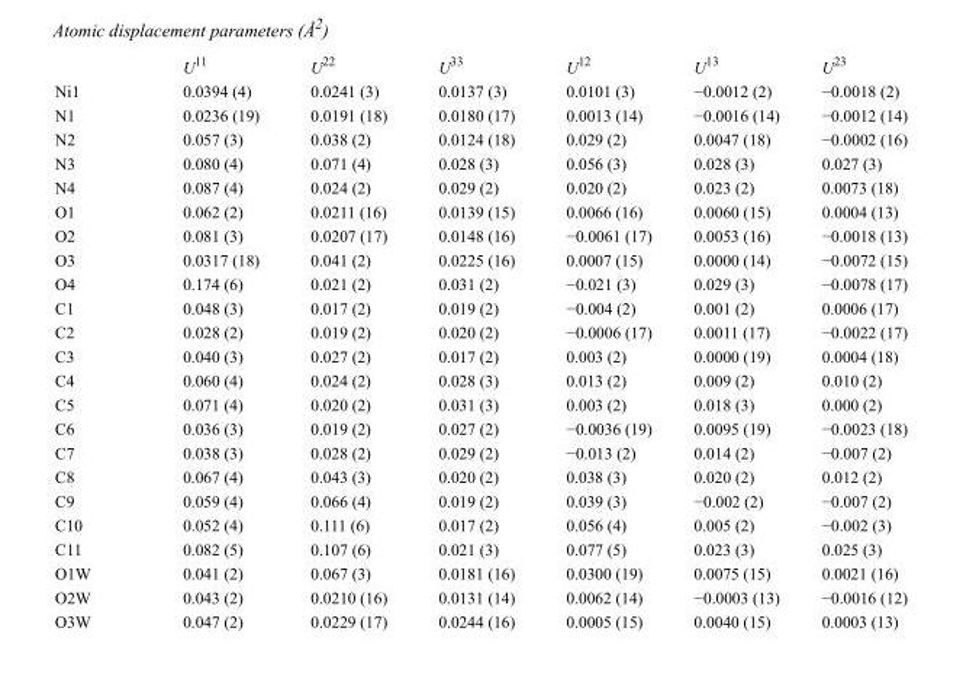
<table><thead><tr><td></td><td>U<sup>11</sup></td><td>U<sup>22</sup></td><td>U<sup>33</sup></td><td>U<sup>12</sup></td><td>U<sup>13</sup></td><td>U<sup>23</sup></td></tr></thead><tbody><tr><td>Ni1</td><td>0.0394 (4)</td><td>0.0241 (3)</td><td>0.0137 (3)</td><td>0.0101 (3)</td><td>−0.0012 (2)</td><td>−0.0018 (2)</td></tr><tr><td>N1</td><td>0.0236 (19)</td><td>0.0191 (18)</td><td>0.0180 (17)</td><td>0.0013 (14)</td><td>−0.0016 (14)</td><td>−0.0012 (14)</td></tr><tr><td>N2</td><td>0.057 (3)</td><td>0.038 (2)</td><td>0.0124 (18)</td><td>0.029 (2)</td><td>0.0047 (18)</td><td>−0.0002 (16)</td></tr><tr><td>N3</td><td>0.080 (4)</td><td>0.071 (4)</td><td>0.028 (3)</td><td>0.056 (3)</td><td>0.028 (3)</td><td>0.027 (3)</td></tr><tr><td>N4</td><td>0.087 (4)</td><td>0.024 (2)</td><td>0.029 (2)</td><td>0.020 (2)</td><td>0.023 (2)</td><td>0.0073 (18)</td></tr><tr><td>O1</td><td>0.062 (2)</td><td>0.0211 (16)</td><td>0.0139 (15)</td><td>0.0066 (16)</td><td>0.0060 (15)</td><td>0.0004 (13)</td></tr><tr><td>O2</td><td>0.081 (3)</td><td>0.0207 (17)</td><td>0.0148 (16)</td><td>−0.0061 (17)</td><td>0.0053 (16)</td><td>−0.0018 (13)</td></tr><tr><td>O3</td><td>0.0317 (18)</td><td>0.041 (2)</td><td>0.0225 (16)</td><td>0.0007 (15)</td><td>0.0000 (14)</td><td>−0.0072 (15)</td></tr><tr><td>O4</td><td>0.174 (6)</td><td>0.021 (2)</td><td>0.031 (2)</td><td>−0.021 (3)</td><td>0.029 (3)</td><td>−0.0078 (17)</td></tr><tr><td>C1</td><td>0.048 (3)</td><td>0.017 (2)</td><td>0.019 (2)</td><td>−0.004 (2)</td><td>0.001 (2)</td><td>0.0006 (17)</td></tr><tr><td>C2</td><td>0.028 (2)</td><td>0.019 (2)</td><td>0.020 (2)</td><td>−0.0006 (17)</td><td>0.0011 (17)</td><td>−0.0022 (17)</td></tr><tr><td>C3</td><td>0.040 (3)</td><td>0.027 (2)</td><td>0.017 (2)</td><td>0.003 (2)</td><td>0.0000 (19)</td><td>0.0004 (18)</td></tr><tr><td>C4</td><td>0.060 (4)</td><td>0.024 (2)</td><td>0.028 (3)</td><td>0.013 (2)</td><td>0.009 (2)</td><td>0.010 (2)</td></tr><tr><td>C5</td><td>0.071 (4)</td><td>0.020 (2)</td><td>0.031 (3)</td><td>0.003 (2)</td><td>0.018 (3)</td><td>0.000 (2)</td></tr><tr><td>C6</td><td>0.036 (3)</td><td>0.019 (2)</td><td>0.027 (2)</td><td>−0.0036 (19)</td><td>0.0095 (19)</td><td>−0.0023 (18)</td></tr><tr><td>C7</td><td>0.038 (3)</td><td>0.028 (2)</td><td>0.029 (2)</td><td>−0.013 (2)</td><td>0.014 (2)</td><td>−0.007 (2)</td></tr><tr><td>C8</td><td>0.067 (4)</td><td>0.043 (3)</td><td>0.020 (2)</td><td>0.038 (3)</td><td>0.020 (2)</td><td>0.012 (2)</td></tr><tr><td>C9</td><td>0.059 (4)</td><td>0.066 (4)</td><td>0.019 (2)</td><td>0.039 (3)</td><td>−0.002 (2)</td><td>−0.007 (2)</td></tr><tr><td>C10</td><td>0.052 (4)</td><td>0.111 (6)</td><td>0.017 (2)</td><td>0.056 (4)</td><td>0.005 (2)</td><td>−0.002 (3)</td></tr><tr><td>C11</td><td>0.082 (5)</td><td>0.107 (6)</td><td>0.021 (3)</td><td>0.077 (5)</td><td>0.023 (3)</td><td>0.025 (3)</td></tr><tr><td>O1W</td><td>0.041 (2)</td><td>0.067 (3)</td><td>0.0181 (16)</td><td>0.0300 (19)</td><td>0.0075 (15)</td><td>0.0021 (16)</td></tr><tr><td>O2W</td><td>0.043 (2)</td><td>0.0210 (16)</td><td>0.0131 (14)</td><td>0.0062 (14)</td><td>−0.0003 (13)</td><td>−0.0016 (12)</td></tr><tr><td>O3W</td><td>0.047 (2)</td><td>0.0229 (17)</td><td>0.0244 (16)</td><td>0.0005 (15)</td><td>0.0040 (15)</td><td>0.0003 (13)</td></tr></tbody></table>